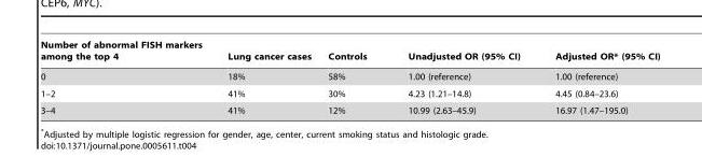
<table><thead><tr><td>Number of abnormal FISH markers among the top 4</td><td>Lung cancer cases</td><td>Controls</td><td>Unadjusted OR (95% CI)</td><td>Adjusted OR* (95% CI)</td></tr></thead><tbody><tr><td>0</td><td>18%</td><td>58%</td><td>1.00 (reference)</td><td>1.00 (reference)</td></tr><tr><td>1–2</td><td>41%</td><td>30%</td><td>4.23 (1.21–14.8)</td><td>4.45 (0.84–23.6)</td></tr><tr><td>3–4</td><td>41%</td><td>12%</td><td>10.99 (2.63–45.9)</td><td>16.97 (1.47–195.0)</td></tr></tbody></table>